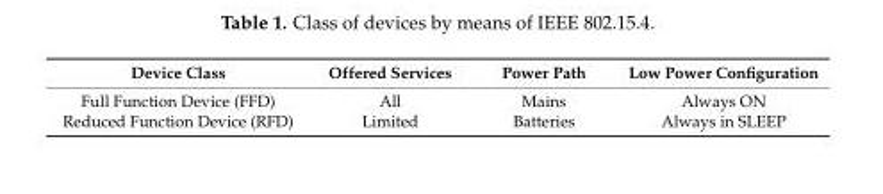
<table><thead><tr><td>Device Class</td><td>Offered Services</td><td>Power Path</td><td>Low Power Configuration</td></tr></thead><tbody><tr><td>Full Function Device (FFD)</td><td>All</td><td>Mains</td><td>Always ON</td></tr><tr><td>Reduced Function Device (RFD)</td><td>Limited</td><td>Batteries</td><td>Always in SLEEP</td></tr></tbody></table>